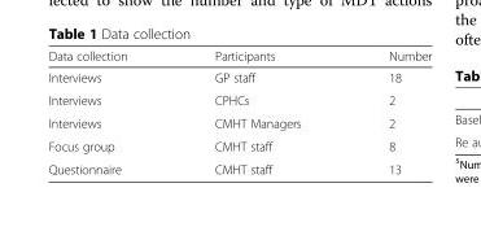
<table><thead><tr><td>Data collection</td><td>Participants</td><td>Number</td></tr></thead><tbody><tr><td>Interviews</td><td>GP staff</td><td>18</td></tr><tr><td>Interviews</td><td>CPHCs</td><td>2</td></tr><tr><td>Interviews</td><td>CMHT Managers</td><td>2</td></tr><tr><td>Focus group</td><td>CMHT staff</td><td>8</td></tr><tr><td>Questionnaire</td><td>CMHT staff</td><td>13</td></tr></tbody></table>